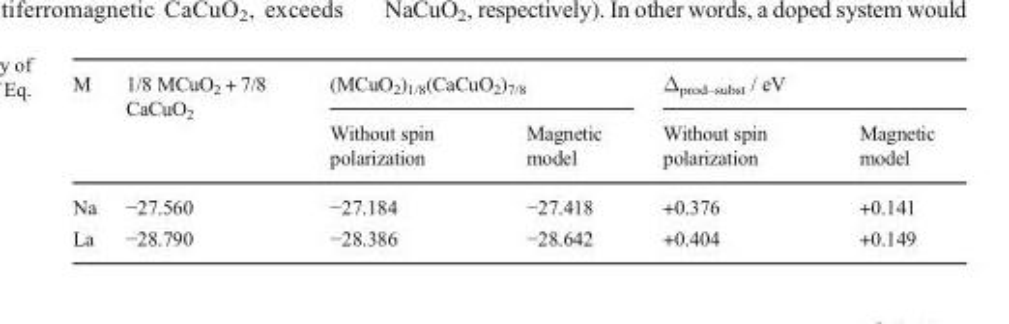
<table><thead><tr><td rowspan="2">M</td><td rowspan="2">1/8 MCuO<sub>2</sub> + 7/8 CaCuO<sub>2</sub></td><td colspan="2">(MCuO<sub>2</sub>)<sub>1/8</sub>(CaCuO<sub>2</sub>)<sub>7/8</sub></td><td colspan="2">Δ<sub>prod–subst</sub> / eV</td></tr><tr><td>Without spin polarization</td><td>Magnetic model</td><td>Without spin polarization</td><td>Magnetic model</td></tr></thead><tbody><tr><td>Na</td><td>−27.560</td><td>−27.184</td><td>−27.418</td><td>+0.376</td><td>+0.141</td></tr><tr><td>La</td><td>−28.790</td><td>−28.386</td><td>−28.642</td><td>+0.404</td><td>+0.149</td></tr></tbody></table>